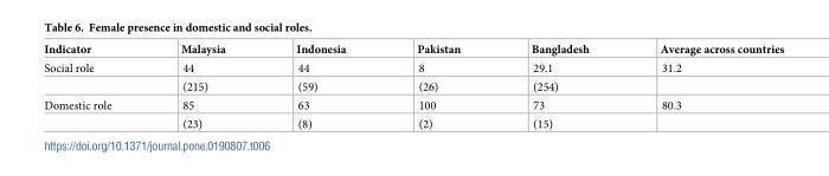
<table><thead><tr><td>Indicator</td><td>Malaysia</td><td>Indonesia</td><td>Pakistan</td><td>Bangladesh</td><td>Average across countries</td></tr></thead><tbody><tr><td rowspan="2">Social role</td><td>44</td><td>44</td><td>8</td><td>29.1</td><td>31.2</td></tr><tr><td>(215)</td><td>(59)</td><td>(26)</td><td>(254)</td><td></td></tr><tr><td rowspan="2">Domestic role</td><td>85</td><td>63</td><td>100</td><td>73</td><td>80.3</td></tr><tr><td>(23)</td><td>(8)</td><td>(2)</td><td>(15)</td><td></td></tr></tbody></table>